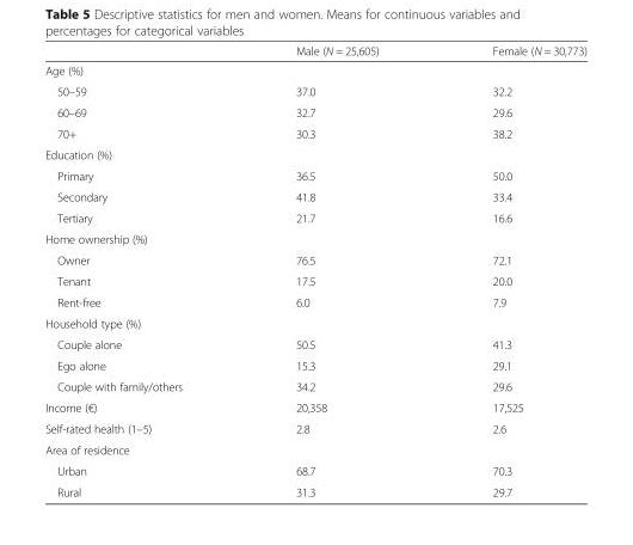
<table><thead><tr><td></td><td>Male (N = 25,605)</td><td>Female (N = 30,773)</td></tr></thead><tbody><tr><td colspan="3">Age (%)</td></tr><tr><td>50–59</td><td>37.0</td><td>32.2</td></tr><tr><td>60–69</td><td>32.7</td><td>29.6</td></tr><tr><td>70+</td><td>30.3</td><td>38.2</td></tr><tr><td colspan="3">Education (%)</td></tr><tr><td>Primary</td><td>36.5</td><td>50.0</td></tr><tr><td>Secondary</td><td>41.8</td><td>33.4</td></tr><tr><td>Tertiary</td><td>21.7</td><td>16.6</td></tr><tr><td colspan="3">Home ownership (%)</td></tr><tr><td>Owner</td><td>76.5</td><td>72.1</td></tr><tr><td>Tenant</td><td>17.5</td><td>20.0</td></tr><tr><td>Rent-free</td><td>6.0</td><td>7.9</td></tr><tr><td colspan="3">Household type (%)</td></tr><tr><td>Couple alone</td><td>50.5</td><td>41.3</td></tr><tr><td>Ego alone</td><td>15.3</td><td>29.1</td></tr><tr><td>Couple with family/others</td><td>34.2</td><td>29.6</td></tr><tr><td>Income (€)</td><td>20,358</td><td>17,525</td></tr><tr><td>Self-rated health (1–5)</td><td>2.8</td><td>2.6</td></tr><tr><td colspan="3">Area of residence</td></tr><tr><td>Urban</td><td>68.7</td><td>70.3</td></tr><tr><td>Rural</td><td>31.3</td><td>29.7</td></tr></tbody></table>